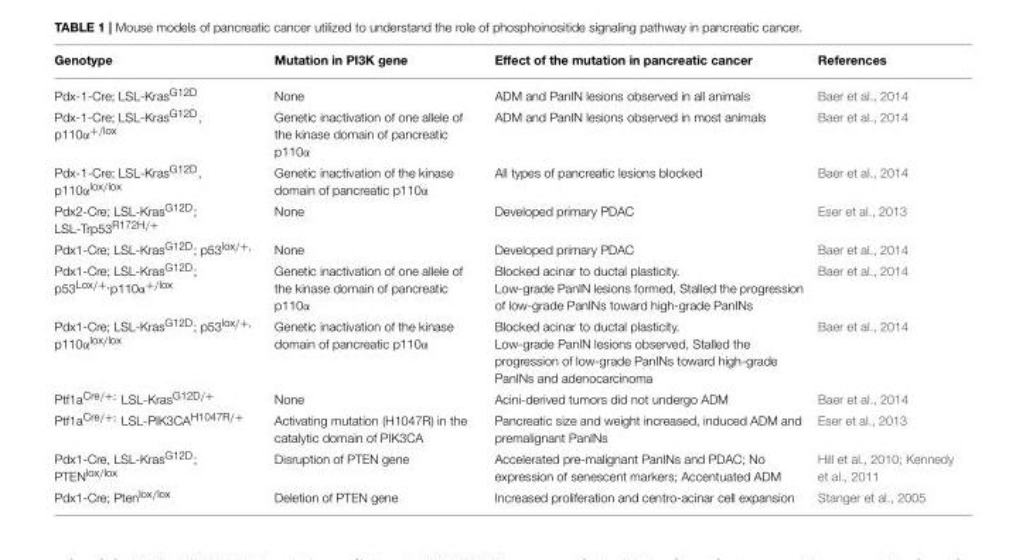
<table><thead><tr><td>Genotype</td><td>Mutation in PI3K gene</td><td>Effect of the mutation in pancreatic cancer</td><td>References</td></tr></thead><tbody><tr><td>Pdx-1-Cre; LSL-Kras<sup>G12D</sup></td><td>None</td><td>ADM and PanIN lesions observed in all animals</td><td>Baer et al., 2014</td></tr><tr><td>Pdx-1-Cre; LSL-Kras<sup>G12D</sup>, p110α<sup>+/lox</sup></td><td>Genetic inactivation of one allele of the kinase domain of pancreatic p110α</td><td>ADM and PanIN lesions observed in most animals</td><td>Baer et al., 2014</td></tr><tr><td>Pdx-1-Cre; LSL-Kras<sup>G12D</sup>, p110α<sup>lox/lox</sup></td><td>Genetic inactivation of the kinase domain of pancreatic p110α</td><td>All types of pancreatic lesions blocked</td><td>Baer et al., 2014</td></tr><tr><td>Pdx2-Cre; LSL-Kras<sup>G12D</sup>; LSL-Trp53<sup>R172H/+</sup></td><td>None</td><td>Developed primary PDAC</td><td>Eser et al., 2013</td></tr><tr><td>Pdx1-Cre; LSL-Kras<sup>G12D</sup>; p53<sup>lox/+</sup>,</td><td>None</td><td>Developed primary PDAC</td><td>Baer et al., 2014</td></tr><tr><td>Pdx1-Cre; LSL-Kras<sup>G12D</sup>; p53<sup>Lox/+</sup>,p110α<sup>+/lox</sup></td><td>Genetic inactivation of one allele of the kinase domain of pancreatic p110α</td><td>Blocked acinar to ductal plasticity. Low-grade PanIN lesions formed, Stalled the progression of low-grade PanINs toward high-grade PanINs</td><td>Baer et al., 2014</td></tr><tr><td>Pdx1-Cre; LSL-Kras<sup>G12D</sup>; p53<sup>lox/+</sup>, p110α<sup>lox/lox</sup></td><td>Genetic inactivation of the kinase domain of pancreatic p110α</td><td>Blocked acinar to ductal plasticity. Low-grade PanIN lesions observed, Stalled the progression of low-grade PanINs toward high-grade PanINs and adenocarcinoma</td><td>Baer et al., 2014</td></tr><tr><td>Ptf1a<sup>Cre/+;</sup> LSL-Kras<sup>G12D/+</sup></td><td>None</td><td>Acini-derived tumors did not undergo ADM</td><td>Baer et al., 2014</td></tr><tr><td>Ptf1a<sup>Cre/+;</sup> LSL-PIK3CA<sup>H1047R/+</sup></td><td>Activating mutation (H1047R) in the catalytic domain of PIK3CA</td><td>Pancreatic size and weight increased, induced ADM and premalignant PanINs</td><td>Eser et al., 2013</td></tr><tr><td>Pdx1-Cre, LSL-Kras<sup>G12D</sup>; PTEN<sup>lox/lox</sup></td><td>Disruption of PTEN gene</td><td>Accelerated pre-malignant PanINs and PDAC; No expression of senescent markers; Accentuated ADM</td><td>Hill et al., 2010; Kennedy et al., 2011</td></tr><tr><td>Pdx1-Cre; Pten<sup>lox/lox</sup></td><td>Deletion of PTEN gene</td><td>Increased proliferation and centro-acinar cell expansion</td><td>Stanger et al., 2005</td></tr></tbody></table>